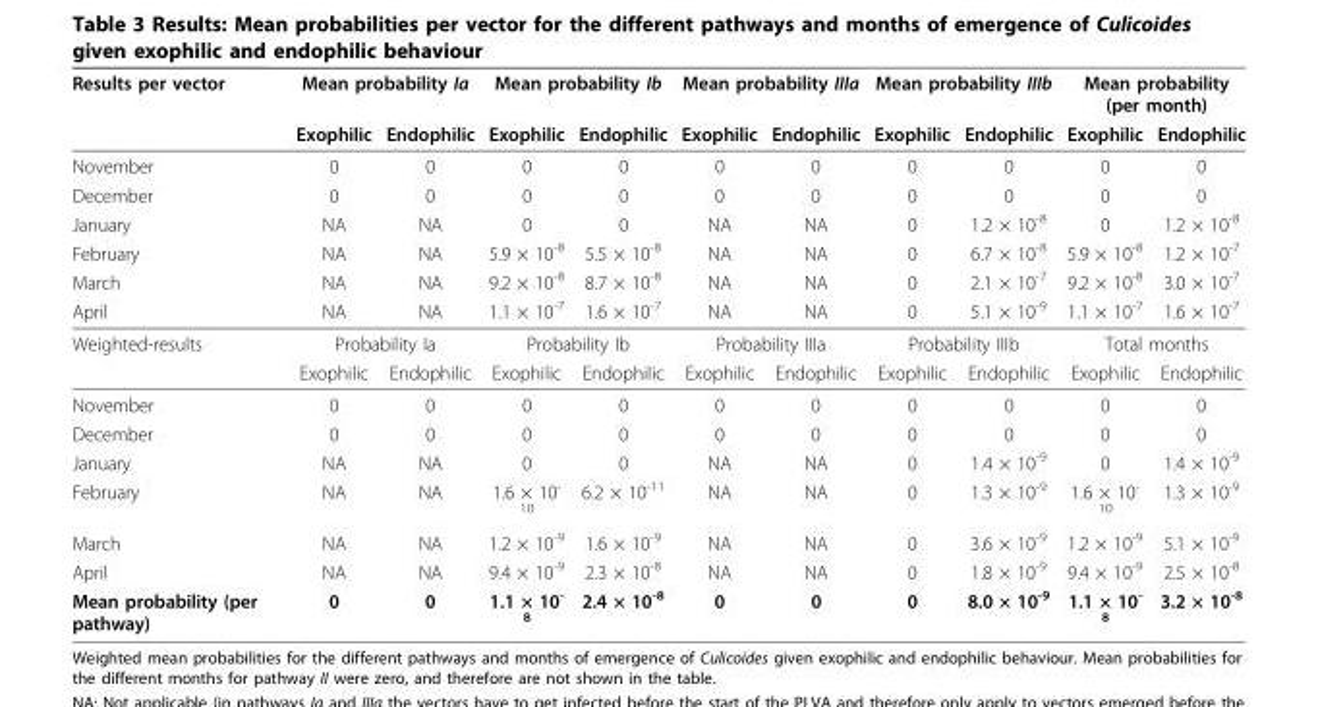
<table><thead><tr><td rowspan="2">Results per vector</td><td colspan="2">Mean probability Ia</td><td colspan="2">Mean probability Ib</td><td colspan="2">Mean probability IIIa</td><td colspan="2">Mean probability IIIb</td><td colspan="2">Mean probability (per month)</td></tr><tr><td>Exophilic</td><td>Endophilic</td><td>Exophilic</td><td>Endophilic</td><td>Exophilic</td><td>Endophilic</td><td>Exophilic</td><td>Endophilic</td><td>Exophilic</td><td>Endophilic</td></tr></thead><tbody><tr><td>November</td><td>0</td><td>0</td><td>0</td><td>0</td><td>0</td><td>0</td><td>0</td><td>0</td><td>0</td><td>0</td></tr><tr><td>December</td><td>0</td><td>0</td><td>0</td><td>0</td><td>0</td><td>0</td><td>0</td><td>0</td><td>0</td><td>0</td></tr><tr><td>January</td><td>NA</td><td>NA</td><td>0</td><td>0</td><td>NA</td><td>NA</td><td>0</td><td>1.2 × 10<sup>-8</sup></td><td>0</td><td>1.2 × 10<sup>-8</sup></td></tr><tr><td>February</td><td>NA</td><td>NA</td><td>5.9 × 10<sup>-8</sup></td><td>5.5 × 10<sup>-8</sup></td><td>NA</td><td>NA</td><td>0</td><td>6.7 × 10<sup>-8</sup></td><td>5.9 × 10<sup>-8</sup></td><td>1.2 × 10<sup>-7</sup></td></tr><tr><td>March</td><td>NA</td><td>NA</td><td>9.2 × 10<sup>-8</sup></td><td>8.7 × 10<sup>-8</sup></td><td>NA</td><td>NA</td><td>0</td><td>2.1 × 10<sup>-7</sup></td><td>9.2 × 10<sup>-8</sup></td><td>3.0 × 10<sup>-7</sup></td></tr><tr><td>April</td><td>NA</td><td>NA</td><td>1.1 × 10<sup>-7</sup></td><td>1.6 × 10<sup>-7</sup></td><td>NA</td><td>NA</td><td>0</td><td>5.1 × 10<sup>-9</sup></td><td>1.1 × 10<sup>-7</sup></td><td>1.6 × 10<sup>-7</sup></td></tr><tr><td rowspan="2">Weighted-results</td><td colspan="2">Probability Ia</td><td colspan="2">Probability Ib</td><td colspan="2">Probability IIIa</td><td colspan="2">Probability IIIb</td><td colspan="2">Total months</td></tr><tr><td>Exophilic</td><td>Endophilic</td><td>Exophilic</td><td>Endophilic</td><td>Exophilic</td><td>Endophilic</td><td>Exophilic</td><td>Endophilic</td><td>Exophilic</td><td>Endophilic</td></tr><tr><td>November</td><td>0</td><td>0</td><td>0</td><td>0</td><td>0</td><td>0</td><td>0</td><td>0</td><td>0</td><td>0</td></tr><tr><td>December</td><td>0</td><td>0</td><td>0</td><td>0</td><td>0</td><td>0</td><td>0</td><td>0</td><td>0</td><td>0</td></tr><tr><td>January</td><td>NA</td><td>NA</td><td>0</td><td>0</td><td>NA</td><td>NA</td><td>0</td><td>1.4 × 10<sup>-9</sup></td><td>0</td><td>1.4 × 10<sup>-9</sup></td></tr><tr><td>February</td><td>NA</td><td>NA</td><td>1.6 × 10<sup>- 10</sup></td><td>6.2 × 10<sup>-11</sup></td><td>NA</td><td>NA</td><td>0</td><td>1.3 × 10<sup>-9</sup></td><td>1.6 × 10<sup>- 10</sup></td><td>1.3 × 10<sup>-9</sup></td></tr><tr><td>March</td><td>NA</td><td>NA</td><td>1.2 × 10<sup>-9</sup></td><td>1.6 × 10<sup>-9</sup></td><td>NA</td><td>NA</td><td>0</td><td>3.6 × 10<sup>-9</sup></td><td>1.2 × 10<sup>-9</sup></td><td>5.1 × 10<sup>-9</sup></td></tr><tr><td>April</td><td>NA</td><td>NA</td><td>9.4 × 10<sup>-9</sup></td><td>2.3 × 10<sup>-8</sup></td><td>NA</td><td>NA</td><td>0</td><td>1.8 × 10<sup>-9</sup></td><td>9.4 × 10<sup>-9</sup></td><td>2.5 × 10<sup>-8</sup></td></tr><tr><td>Mean probability (per pathway)</td><td>0</td><td>0</td><td>1.1 × 10<sup>- 8</sup></td><td>2.4 × 10<sup>-8</sup></td><td>0</td><td>0</td><td>0</td><td>8.0 × 10<sup>-9</sup></td><td>1.1 × 10<sup>- 8</sup></td><td>3.2 × 10<sup>-8</sup></td></tr></tbody></table>